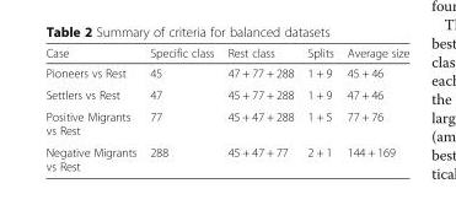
<table><thead><tr><td>Case</td><td>Specific class</td><td>Rest class</td><td>Splits</td><td>Average size</td></tr></thead><tbody><tr><td>Pioneers vs Rest</td><td>45</td><td>47 + 77 + 288</td><td>1 + 9</td><td>45 + 46</td></tr><tr><td>Settlers vs Rest</td><td>47</td><td>45 + 77 + 288</td><td>1 + 9</td><td>47 + 46</td></tr><tr><td>Positive Migrants vs Rest</td><td>77</td><td>45 + 47 + 288</td><td>1 + 5</td><td>77 + 76</td></tr><tr><td>Negative Migrants vs Rest</td><td>288</td><td>45 + 47 + 77</td><td>2 + 1</td><td>144 + 169</td></tr></tbody></table>